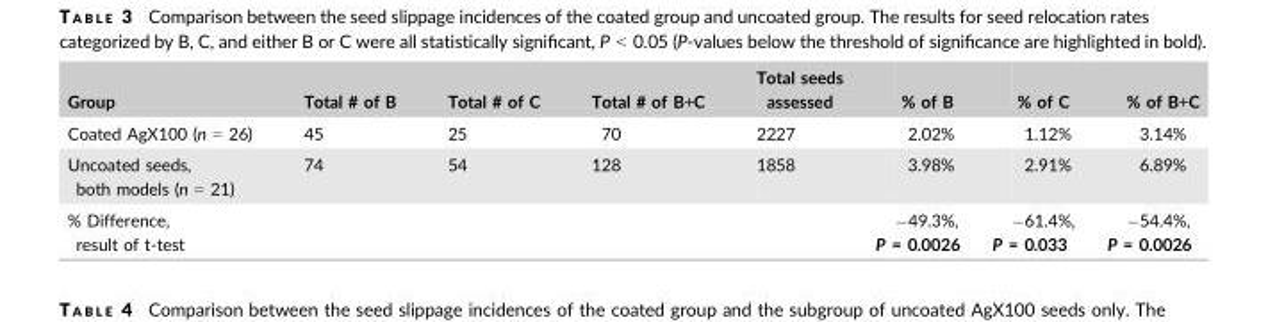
<table><thead><tr><td>Group</td><td>Total # of B</td><td>Total # of C</td><td>Total # of B+C</td><td>Total seeds assessed</td><td>% of B</td><td>% of C</td><td>% of B+C</td></tr></thead><tbody><tr><td>Coated AgX100 (n = 26)</td><td>45</td><td>25</td><td>70</td><td>2227</td><td>2.02%</td><td>1.12%</td><td>3.14%</td></tr><tr><td>Uncoated seeds, both models (n = 21)</td><td>74</td><td>54</td><td>128</td><td>1858</td><td>3.98%</td><td>2.91%</td><td>6.89%</td></tr><tr><td>% Difference, result of t-test</td><td></td><td></td><td></td><td></td><td>−49.3%, P = 0.0026</td><td>−61.4%, P = 0.033</td><td>−54.4%, P = 0.0026</td></tr></tbody></table>